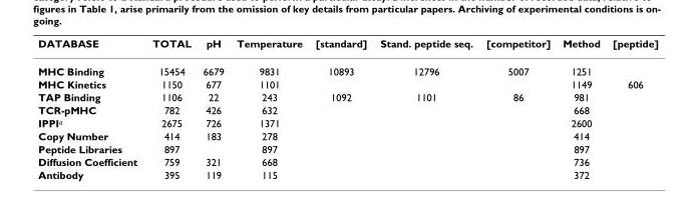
<table><thead><tr><td>DATABASE</td><td>TOTAL</td><td>pH</td><td>Temperature</td><td>[standard]</td><td>Stand. peptide seq.</td><td>[competitor]</td><td>Method</td><td>[peptide]</td></tr></thead><tbody><tr><td>MHC Binding</td><td>15454</td><td>6679</td><td>9831</td><td>10893</td><td>12796</td><td>5007</td><td>1251</td><td></td></tr><tr><td>MHC Kinetics</td><td>1150</td><td>677</td><td>1101</td><td></td><td></td><td></td><td>1149</td><td>606</td></tr><tr><td>TAP Binding</td><td>1106</td><td>22</td><td>243</td><td>1092</td><td>1101</td><td>86</td><td>981</td><td></td></tr><tr><td>TCR-pMHC</td><td>782</td><td>426</td><td>632</td><td></td><td></td><td></td><td>668</td><td></td></tr><tr><td>IPPI<sup>a</sup></td><td>2675</td><td>726</td><td>1371</td><td></td><td></td><td></td><td>2600</td><td></td></tr><tr><td>Copy Number</td><td>414</td><td>183</td><td>278</td><td></td><td></td><td></td><td>414</td><td></td></tr><tr><td>Peptide Libraries</td><td>897</td><td></td><td>897</td><td></td><td></td><td></td><td>897</td><td></td></tr><tr><td>Diffusion Coefficient</td><td>759</td><td>321</td><td>668</td><td></td><td></td><td></td><td>736</td><td></td></tr><tr><td>Antibody</td><td>395</td><td>119</td><td>115</td><td></td><td></td><td></td><td>372</td><td></td></tr></tbody></table>